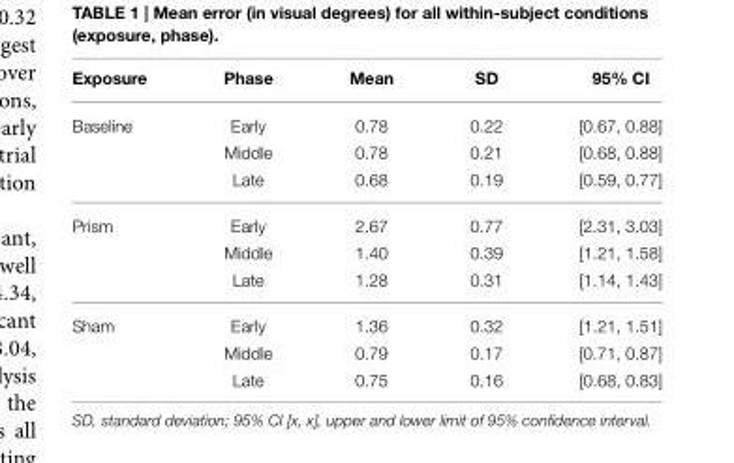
<table><thead><tr><td>Exposure</td><td>Phase</td><td>Mean</td><td>SD</td><td>95% CI</td></tr></thead><tbody><tr><td rowspan="3">Baseline</td><td>Early</td><td>0.78</td><td>0.22</td><td>[0.67, 0.88]</td></tr><tr><td>Middle</td><td>0.78</td><td>0.21</td><td>[0.68, 0.88]</td></tr><tr><td>Late</td><td>0.68</td><td>0.19</td><td>[0.59, 0.77]</td></tr><tr><td rowspan="3">Prism</td><td>Early</td><td>2.67</td><td>0.77</td><td>[2.31, 3.03]</td></tr><tr><td>Middle</td><td>1.40</td><td>0.39</td><td>[1.21, 1.58]</td></tr><tr><td>Late</td><td>1.28</td><td>0.31</td><td>[1.14, 1.43]</td></tr><tr><td rowspan="3">Sham</td><td>Early</td><td>1.36</td><td>0.32</td><td>[1.21, 1.51]</td></tr><tr><td>Middle</td><td>0.79</td><td>0.17</td><td>[0.71, 0.87]</td></tr><tr><td>Late</td><td>0.75</td><td>0.16</td><td>[0.68, 0.83]</td></tr></tbody></table>